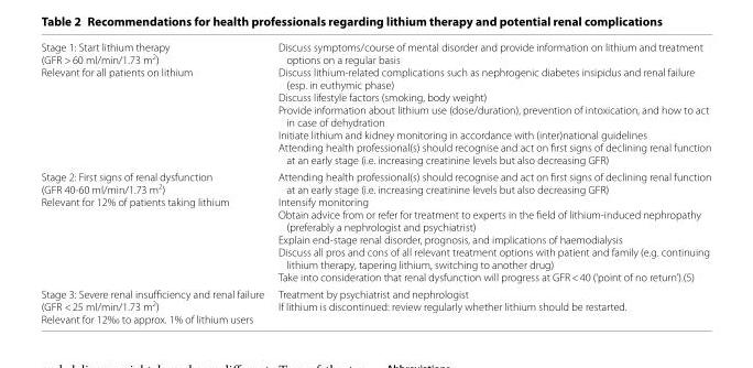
<table><tbody><tr><td>Stage 1: Start lithium therapy (GFR &gt; 60 ml/min/1.73 m<sup>2</sup>) Relevant for all patients on lithium</td><td>Discuss symptoms/course of mental disorder and provide information on lithium and treatment options on a regular basis Discuss lithium-related complications such as nephrogenic diabetes insipidus and renal failure (esp. in euthymic phase) Discuss lifestyle factors (smoking, body weight) Provide information about lithium use (dose/duration), prevention of intoxication, and how to act in case of dehydration Initiate lithium and kidney monitoring in accordance with (inter)national guidelines Attending health professional(s) should recognise and act on first signs of declining renal function at an early stage (i.e. increasing creatinine levels but also decreasing GFR)</td></tr><tr><td>Stage 2: First signs of renal dysfunction (GFR 40-60 ml/min/1.73 m<sup>2</sup>) Relevant for 12% of patients taking lithium</td><td>Attending health professional(s) should recognise and act on first signs of declining renal function at an early stage (i.e. increasing creatinine levels but also decreasing GFR) Intensify monitoring Obtain advice from or refer for treatment to experts in the field of lithium-induced nephropathy (preferably a nephrologist and psychiatrist) Explain end-stage renal disorder, prognosis, and implications of haemodialysis Discuss all pros and cons of all relevant treatment options with patient and family (e.g. continuing lithium therapy, tapering lithium, switching to another drug) Take into consideration that renal dysfunction will progress at GFR &lt; 40 (‘point of no return’).(5)</td></tr><tr><td>Stage 3: Severe renal insufficiency and renal failure (GFR &lt; 25 ml/min/1.73 m<sup>2</sup>) Relevant for 12‰ to approx. 1% of lithium users</td><td>Treatment by psychiatrist and nephrologist If lithium is discontinued: review regularly whether lithium should be restarted.</td></tr></tbody></table>